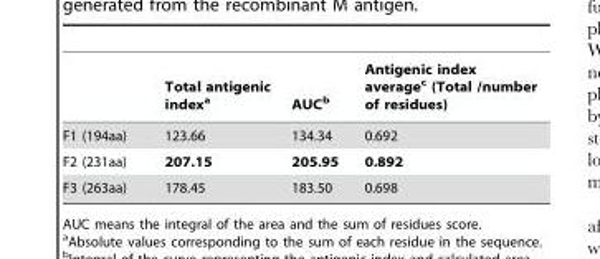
<table><thead><tr><td></td><td>Total antigenic index<sup>a</sup></td><td>AUC<sup>b</sup></td><td>Antigenic index average<sup>c</sup> (Total /number of residues)</td></tr></thead><tbody><tr><td>F1 (194aa)</td><td>123.66</td><td>134.34</td><td>0.692</td></tr><tr><td>F2 (231aa)</td><td>207.15</td><td>205.95</td><td>0.892</td></tr><tr><td>F3 (263aa)</td><td>178.45</td><td>183.50</td><td>0.698</td></tr></tbody></table>